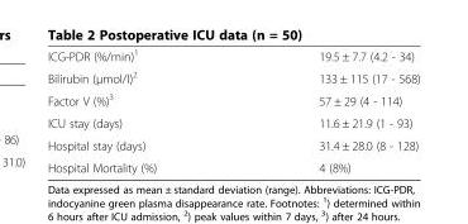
<table><tbody><tr><td>ICG-PDR (%/min)<sup>1</sup></td><td>19.5 ± 7.7 (4.2 - 34)</td></tr><tr><td>Bilirubin (μmol/l)<sup>2</sup></td><td>133 ± 115 (17 - 568)</td></tr><tr><td>Factor V (%)<sup>3</sup></td><td>57 ± 29 (4 - 114)</td></tr><tr><td>ICU stay (days)</td><td>11.6 ± 21.9 (1 - 93)</td></tr><tr><td>Hospital stay (days)</td><td>31.4 ± 28.0 (8 - 128)</td></tr><tr><td>Hospital Mortality (%)</td><td>4 (8%)</td></tr></tbody></table>